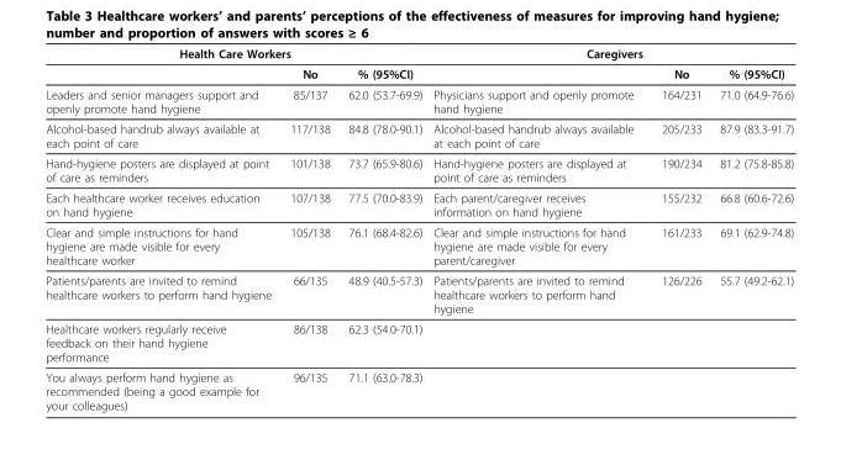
<table><thead><tr><td colspan="3">Health Care Workers</td><td colspan="3">Caregivers</td></tr><tr><td></td><td>No</td><td>% (95%CI)</td><td></td><td>No</td><td>% (95%CI)</td></tr></thead><tbody><tr><td>Leaders and senior managers support and openly promote hand hygiene</td><td>85/137</td><td>62.0 (53.7-69.9)</td><td>Physicians support and openly promote hand hygiene</td><td>164/231</td><td>71.0 (64.9-76.6)</td></tr><tr><td>Alcohol-based handrub always available at each point of care</td><td>117/138</td><td>84.8 (78.0-90.1)</td><td>Alcohol-based handrub always available at each point of care</td><td>205/233</td><td>87.9 (83.3-91.7)</td></tr><tr><td>Hand-hygiene posters are displayed at point of care as reminders</td><td>101/138</td><td>73.7 (65.9-80.6)</td><td>Hand-hygiene posters are displayed at point of care as reminders</td><td>190/234</td><td>81.2 (75.8-85.8)</td></tr><tr><td>Each healthcare worker receives education on hand hygiene</td><td>107/138</td><td>77.5 (70.0-83.9)</td><td>Each parent/caregiver receives information on hand hygiene</td><td>155/232</td><td>66.8 (60.6-72.6)</td></tr><tr><td>Clear and simple instructions for hand hygiene are made visible for every healthcare worker</td><td>105/138</td><td>76.1 (68.4-82.6)</td><td>Clear and simple instructions for hand hygiene are made visible for every parent/caregiver</td><td>161/233</td><td>69.1 (62.9-74.8)</td></tr><tr><td>Patients/parents are invited to remind healthcare workers to perform hand hygiene</td><td>66/135</td><td>48.9 (40.5-57.3)</td><td>Patients/parents are invited to remind healthcare workers to perform hand hygiene</td><td>126/226</td><td>55.7 (49.2-62.1)</td></tr><tr><td>Healthcare workers regularly receive feedback on their hand hygiene performance</td><td>86/138</td><td>62.3 (54.0-70.1)</td><td></td><td></td><td></td></tr><tr><td>You always perform hand hygiene as recommended (being a good example for your colleagues)</td><td>96/135</td><td>71.1 (63.0-78.3)</td><td></td><td></td><td></td></tr></tbody></table>